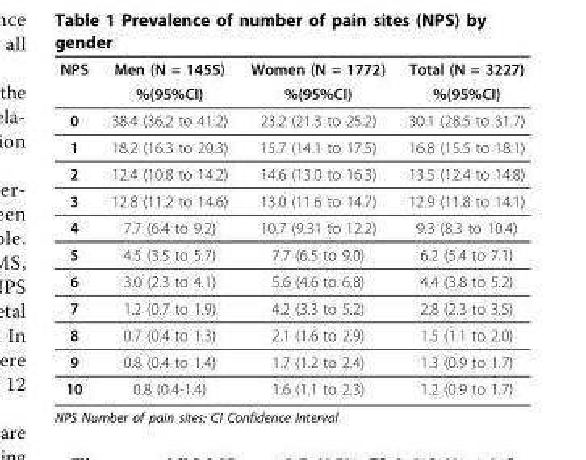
<table><thead><tr><td rowspan="2">NPS</td><td rowspan="2">Men (N = 1455) %(95%CI)</td><td rowspan="2">Women (N = 1772) %(95%CI)</td><td rowspan="2">Total (N = 3227) %(95%CI)</td></tr><tr></tr></thead><tbody><tr><td>0</td><td>38.4 (36.2 to 41.2)</td><td>23.2 (21.3 to 25.2)</td><td>30.1 (28.5 to 31.7)</td></tr><tr><td>1</td><td>18.2 (16.3 to 20.3)</td><td>15.7 (14.1 to 17.5)</td><td>16.8 (15.5 to 18.1)</td></tr><tr><td>2</td><td>12.4 (10.8 to 14.2)</td><td>14.6 (13.0 to 16.3)</td><td>13.5 (12.4 to 14.8)</td></tr><tr><td>3</td><td>12.8 (11.2 to 14.6)</td><td>13.0 (11.6 to 14.7)</td><td>12.9 (11.8 to 14.1)</td></tr><tr><td>4</td><td>7.7 (6.4 to 9.2)</td><td>10.7 (9.31 to 12.2)</td><td>9.3 (8.3 to 10.4)</td></tr><tr><td>5</td><td>4.5 (3.5 to 5.7)</td><td>7.7 (6.5 to 9.0)</td><td>6.2 (5.4 to 7.1)</td></tr><tr><td>6</td><td>3.0 (2.3 to 4.1)</td><td>5.6 (4.6 to 6.8)</td><td>4.4 (3.8 to 5.2)</td></tr><tr><td>7</td><td>1.2 (0.7 to 1.9)</td><td>4.2 (3.3 to 5.2)</td><td>2.8 (2.3 to 3.5)</td></tr><tr><td>8</td><td>0.7 (0.4 to 1.3)</td><td>2.1 (1.6 to 2.9)</td><td>1.5 (1.1 to 2.0)</td></tr><tr><td>9</td><td>0.8 (0.4 to 1.4)</td><td>1.7 (1.2 to 2.4)</td><td>1.3 (0.9 to 1.7)</td></tr><tr><td>10</td><td>0.8 (0.4-1.4)</td><td>1.6 (1.1 to 2.3)</td><td>1.2 (0.9 to 1.7)</td></tr></tbody></table>